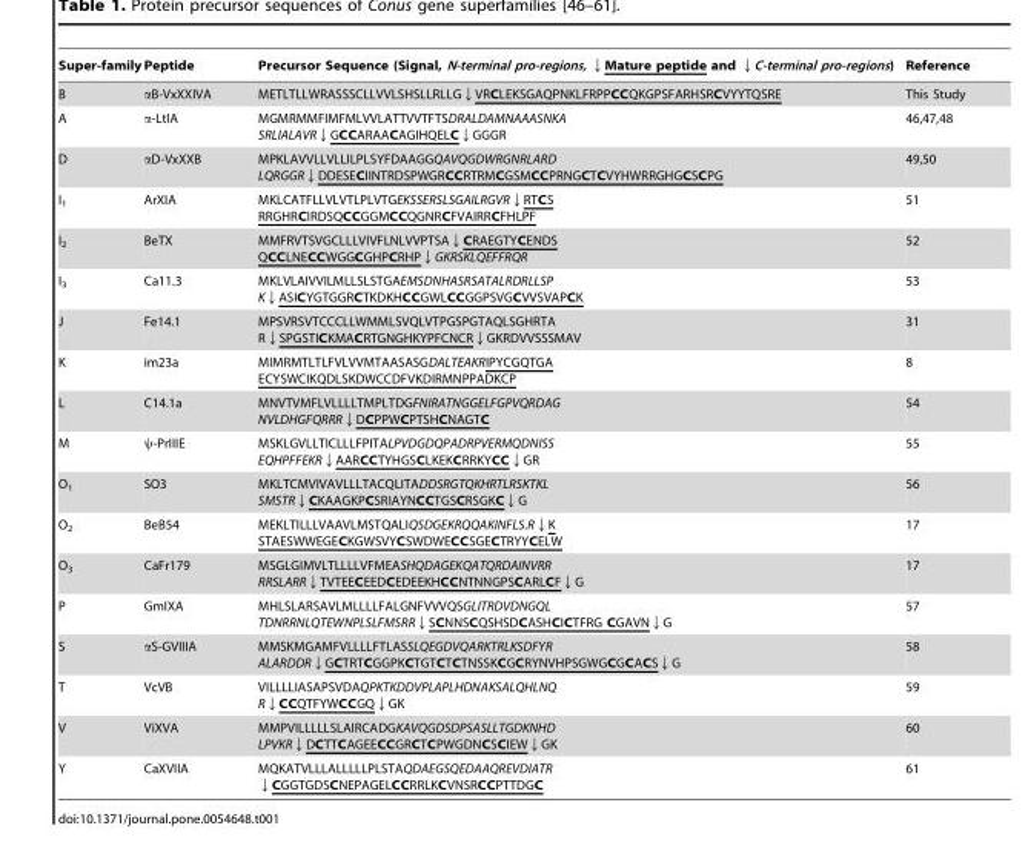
<table><thead><tr><td>Super-family</td><td>Peptide</td><td>Precursor Sequence (Signal, N-terminal pro-regions, ↓Mature peptide and ↓C-terminal pro-regions)</td><td>Reference</td></tr></thead><tbody><tr><td>B</td><td>αB-VxXXIVA</td><td>METLTLLWRASSSCLLVVLSHSLLRLLG↓VRCLEKSGAQPNKLFRPPCCQKGPSFARHSRCVYYTQSRE</td><td>This Study</td></tr><tr><td>A</td><td>α-LtIA</td><td>MGMRMMFIMFMLVVLATTVVTFTSDRALDAMNAAASNKA SRLIALAVR↓GCCARAACAGIHQELC↓GGGR</td><td>46,47,48</td></tr><tr><td>D</td><td>αD-VxXXB</td><td>MPKLAVVLLVLLILPLSYFDAAGGQAVQGDWRGNRLARD LQRGGR↓DDESECIINTRDSPWGRCCRTRMCGSMCCPRNGCTCVYHWRRGHGCSCPG</td><td>49,50</td></tr><tr><td>I<sub>1</sub></td><td>ArXIA</td><td>MKLCATFLLVLVTLPLVTGEKSSERSLSGAILRGVR↓RTCS RRGHRCIRDSQCCGGMCCQGNRCFVAIRRCFHLPF</td><td>51</td></tr><tr><td>I<sub>2</sub></td><td>BeTX</td><td>MMFRVTSVGCLLLVIVFLNLVVPTSA↓CRAEGTYCENDS QCCLNECCWGGCGHPCRHP↓GKRSKLQEFFRQR</td><td>52</td></tr><tr><td>I<sub>3</sub></td><td>Ca11.3</td><td>MKLVLAIVVILMLLSLSTGAEMSDNHASRSATALRDRLLSP K↓ASICYGTGGRCTKDKHCCGWLCCGGPSVGCVVSVAPCK</td><td>53</td></tr><tr><td>J</td><td>Fe14.1</td><td>MPSVRSVTCCCLLWMMLSVQLVTPGSPGTAQLSGHRTA R↓SPGSTICKMACRTGNGHKYPFCNCR↓GKRDVVSSSMAV</td><td>31</td></tr><tr><td>K</td><td>im23a</td><td>MIMRMTLTLFVLVVMTAASASGDALTEAKRIPYCGQTGA ECYSWCIKQDLSKDWCCDFVKDIRMNPPADKCP</td><td>8</td></tr><tr><td>L</td><td>C14.1a</td><td>MNVTVMFLVLLLLTMPLTDGFNIRATNGGELFGPVQRDAG NVLDHGFQRRR↓DCPPWCPTSHCNAGTC</td><td>54</td></tr><tr><td>M</td><td>ψ-PrIIIE</td><td>MSKLGVLLTICLLLFPITALPVDGDQPADRPVERMQDNISS EQHPFFEKR↓AARCCTYHGSCLKEKCRRKYCC↓GR</td><td>55</td></tr><tr><td>O<sub>1</sub></td><td>SO3</td><td>MKLTCMVIVAVLLLTACQLITADDSRGTQKHRTLRSKTKL SMSTR↓CKAAGKPCSRIAYNCCTGSCRSGKC↓G</td><td>56</td></tr><tr><td>O<sub>2</sub></td><td>BeB54</td><td>MEKLTILLLVAAVLMSTQALIQSDGEKRQQAKINFLS.R↓K STAESWWEGECKGWSVYCSWDWECCSGECTRYYCELW</td><td>17</td></tr><tr><td>O<sub>3</sub></td><td>CaFr179</td><td>MSGLGIMVLTLLLLVFMEASHQDAGEKQATQRDAINVRR RRSLARR↓TVTEECEEDCEDEEKHCCNTNNGPSCARLCF↓G</td><td>17</td></tr><tr><td>P</td><td>GmIXA</td><td>MHLSLARSAVLMLLLLFALGNFVVVQSGLITRDVDNGQL TDNRRNLQTEWNPLSLFMSRR↓SCNNSCQSHSDCASHCICTFRG CGAVN↓G</td><td>57</td></tr><tr><td>S</td><td>αS-GVIIIA</td><td>MMSKMGAMFVLLLLFTLASSLQEGDVQARKTRLKSDFYR ALARDDR↓GCTRTCGGPKCTGTCTCTNSSKCGCRYNVHPSGWGCGCACS↓G</td><td>58</td></tr><tr><td>T</td><td>VcVB</td><td>VILLLLIASAPSVDAQPKTKDDVPLAPLHDNAKSALQHLNQ R↓CCQTFYWCCGQ↓GK</td><td>59</td></tr><tr><td>V</td><td>ViXVA</td><td>MMPVILLLLLSLAIRCADGKAVQGDSDPSASLLTGDKNHD LPVKR↓DCTTCAGEECCGRCTCPWGDNCSCIEW↓GK</td><td>60</td></tr><tr><td>Y</td><td>CaXVIIA</td><td>MQKATVLLLALLLLLPLSTAQDAEGSQEDAAQREVDIATR ↓CGGTGDSCNEPAGELCCRRLKCVNSRCCPTTDGC</td><td>61</td></tr></tbody></table>